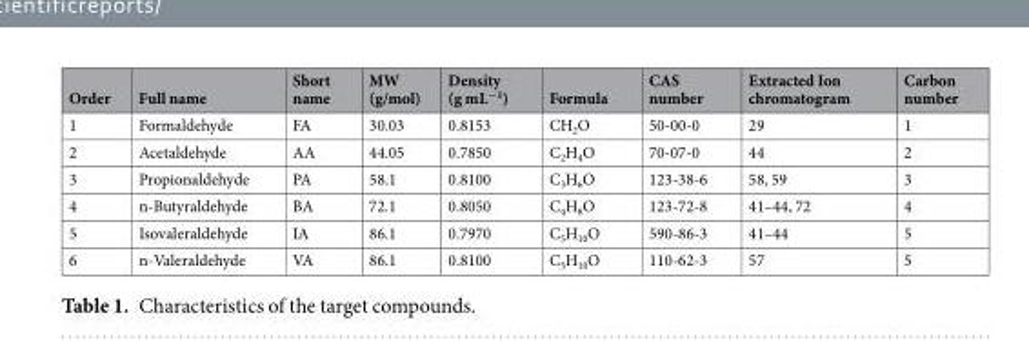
<table><thead><tr><td>Order</td><td>Full name</td><td>Short name</td><td>MW (g/mol)</td><td>Density (g mL<sup>−1</sup>)</td><td>Formula</td><td>CAS number</td><td>Extracted Ion chromatogram</td><td>Carbon number</td></tr></thead><tbody><tr><td>1</td><td>Formaldehyde</td><td>FA</td><td>30.03</td><td>0.8153</td><td>CH<sub>2</sub>O</td><td>50-00-0</td><td>29</td><td>1</td></tr><tr><td>2</td><td>Acetaldehyde</td><td>AA</td><td>44.05</td><td>0.7850</td><td>C<sub>2</sub>H<sub>4</sub>O</td><td>70-07-0</td><td>44</td><td>2</td></tr><tr><td>3</td><td>Propionaldehyde</td><td>PA</td><td>58.1</td><td>0.8100</td><td>C<sub>3</sub>H<sub>6</sub>O</td><td>123-38-6</td><td>58, 59</td><td>3</td></tr><tr><td>4</td><td>n-Butyraldehyde</td><td>BA</td><td>72.1</td><td>0.8050</td><td>C<sub>4</sub>H<sub>8</sub>O</td><td>123-72-8</td><td>41–44, 72</td><td>4</td></tr><tr><td>5</td><td>Isovaleraldehyde</td><td>IA</td><td>86.1</td><td>0.7970</td><td>C<sub>5</sub>H<sub>10</sub>O</td><td>590-86-3</td><td>41–44</td><td>5</td></tr><tr><td>6</td><td>n-Valeraldehyde</td><td>VA</td><td>86.1</td><td>0.8100</td><td>C<sub>5</sub>H<sub>10</sub>O</td><td>110-62-3</td><td>57</td><td>5</td></tr></tbody></table>